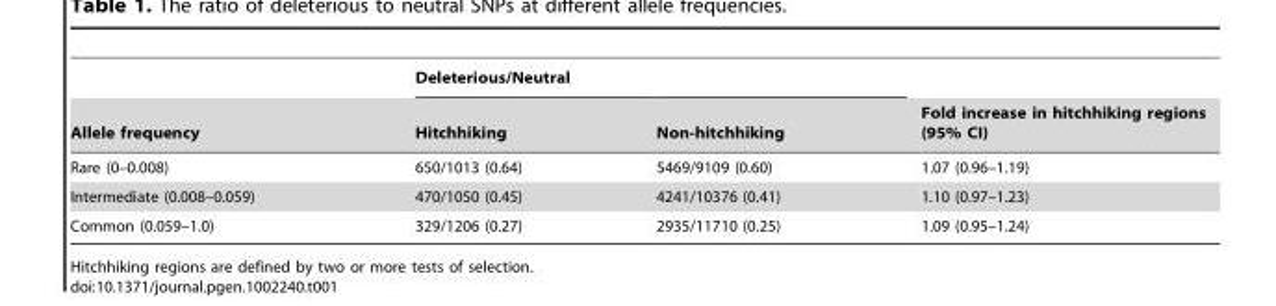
<table><thead><tr><td rowspan="2">Allele frequency</td><td colspan="2">Deleterious/Neutral</td><td rowspan="2">Fold increase in hitchhiking regions (95% CI)</td></tr><tr><td>Hitchhiking</td><td>Non-hitchhiking</td></tr></thead><tbody><tr><td>Rare (0–0.008)</td><td>650/1013 (0.64)</td><td>5469/9109 (0.60)</td><td>1.07 (0.96–1.19)</td></tr><tr><td>Intermediate (0.008–0.059)</td><td>470/1050 (0.45)</td><td>4241/10376 (0.41)</td><td>1.10 (0.97–1.23)</td></tr><tr><td>Common (0.059–1.0)</td><td>329/1206 (0.27)</td><td>2935/11710 (0.25)</td><td>1.09 (0.95–1.24)</td></tr></tbody></table>